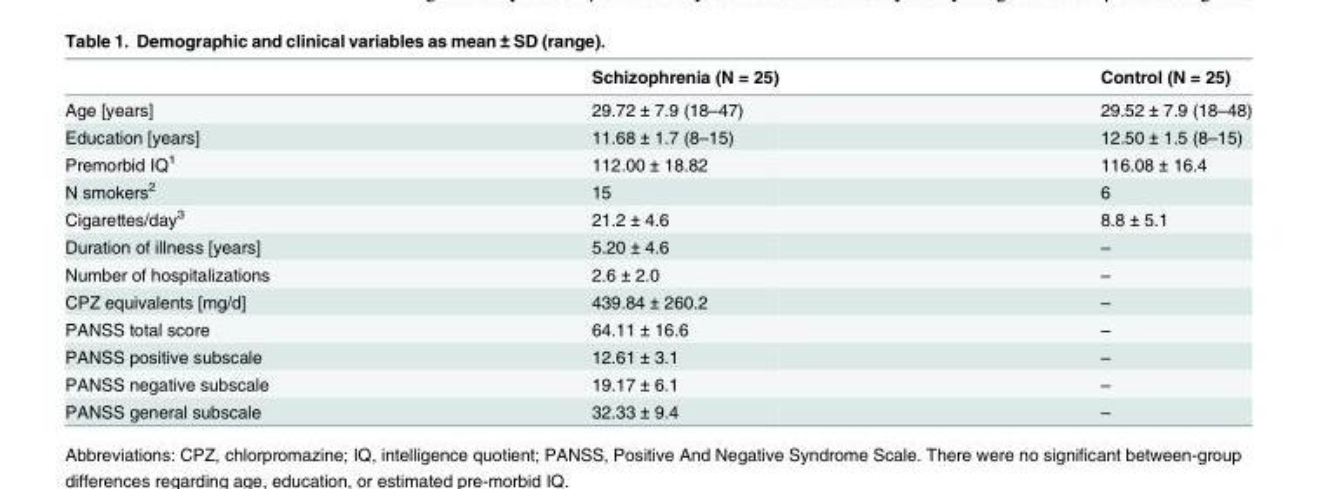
<table><thead><tr><td></td><td>Schizophrenia (N = 25)</td><td>Control (N = 25)</td></tr></thead><tbody><tr><td>Age [years]</td><td>29.72 ± 7.9 (18–47)</td><td>29.52 ± 7.9 (18–48)</td></tr><tr><td>Education [years]</td><td>11.68 ± 1.7 (8–15)</td><td>12.50 ± 1.5 (8–15)</td></tr><tr><td>Premorbid IQ<sup>1</sup></td><td>112.00 ± 18.82</td><td>116.08 ± 16.4</td></tr><tr><td>N smokers<sup>2</sup></td><td>15</td><td>6</td></tr><tr><td>Cigarettes/day<sup>3</sup></td><td>21.2 ± 4.6</td><td>8.8 ± 5.1</td></tr><tr><td>Duration of illness [years]</td><td>5.20 ± 4.6</td><td>–</td></tr><tr><td>Number of hospitalizations</td><td>2.6 ± 2.0</td><td>–</td></tr><tr><td>CPZ equivalents [mg/d]</td><td>439.84 ± 260.2</td><td>–</td></tr><tr><td>PANSS total score</td><td>64.11 ± 16.6</td><td>–</td></tr><tr><td>PANSS positive subscale</td><td>12.61 ± 3.1</td><td>–</td></tr><tr><td>PANSS negative subscale</td><td>19.17 ± 6.1</td><td>–</td></tr><tr><td>PANSS general subscale</td><td>32.33 ± 9.4</td><td>–</td></tr></tbody></table>